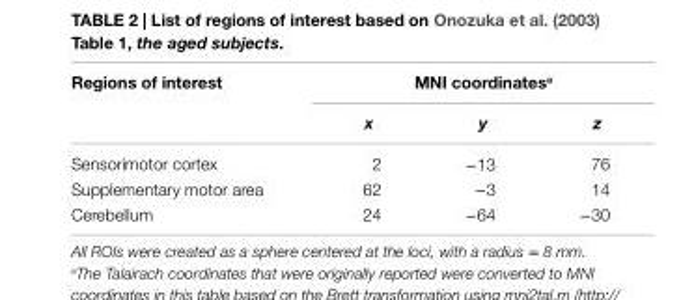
<table><thead><tr><td rowspan="2">regions of interest</td><td colspan="3">Mni coordinates<sup>a</sup></td></tr><tr><td>x</td><td>y</td><td>z</td></tr></thead><tbody><tr><td>Sensorimotor cortex</td><td>2</td><td>−13</td><td>76</td></tr><tr><td>Supplementary motor area</td><td>62</td><td>−3</td><td>14</td></tr><tr><td>Cerebellum</td><td>24</td><td>−64</td><td>−30</td></tr></tbody></table>